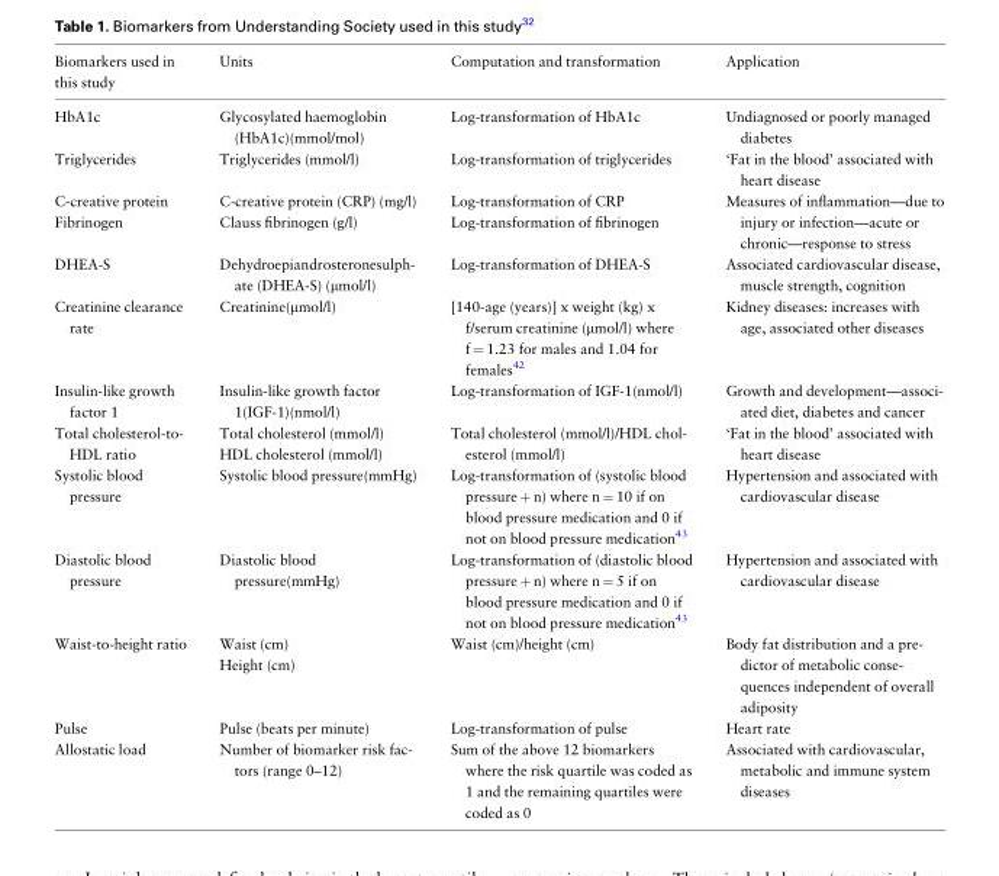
<table><thead><tr><td>Biomarkers used in this study</td><td>Units</td><td>Computation and transformation</td><td>Application</td></tr></thead><tbody><tr><td>HbA1c</td><td>Glycosylated haemoglobin (HbA1c)(mmol/mol)</td><td>Log-transformation of HbA1c</td><td>Undiagnosed or poorly managed diabetes</td></tr><tr><td>Triglycerides</td><td>Triglycerides (mmol/l)</td><td>Log-transformation of triglycerides</td><td>‘Fat in the blood’ associated with heart disease</td></tr><tr><td>C-creative protein</td><td>C-creative protein (CRP) (mg/l)</td><td>Log-transformation of CRP</td><td rowspan="2">Measures of inflammation—due to injury or infection—acute or chronic—response to stress</td></tr><tr><td>Fibrinogen</td><td>Clauss fibrinogen (g/l)</td><td>Log-transformation of fibrinogen</td></tr><tr><td>DHEA-S</td><td>Dehydroepiandrosteronesulph- ate (DHEA-S) (mmol/l)</td><td>Log-transformation of DHEA-S</td><td>Associated cardiovascular disease, muscle strength, cognition</td></tr><tr><td>Creatinine clearance rate</td><td>Creatinine(µmol/l)</td><td>[140-age (years)] x weight (kg) x f/serum creatinine (µmol/l) where f = 1.23 for males and 1.04 for females<sup>42</sup></td><td>Kidney diseases: increases with age, associated other diseases</td></tr><tr><td>Insulin-like growth factor 1</td><td>Insulin-like growth factor 1(IGF-1)(nmol/l)</td><td>Log-transformation of IGF-1(nmol/l)</td><td>Growth and development—associ- ated diet, diabetes and cancer</td></tr><tr><td>Total cholesterol-to- HDL ratio</td><td>Total cholesterol (mmol/l) HDL cholesterol (mmol/l)</td><td>Total cholesterol (mmol/l)/HDL chol- esterol (mmol/l)</td><td>‘Fat in the blood’ associated with heart disease</td></tr><tr><td>Systolic blood pressure</td><td>Systolic blood pressure(mmHg)</td><td>Log-transformation of (systolic blood pressure + n) where n = 10 if on blood pressure medication and 0 if not on blood pressure medication<sup>43</sup></td><td>Hypertension and associated with cardiovascular disease</td></tr><tr><td>Diastolic blood pressure</td><td>Diastolic blood pressure(mmHg)</td><td>Log-transformation of (diastolic blood pressure + n) where n = 5 if on blood pressure medication and 0 if not on blood pressure medication<sup>43</sup></td><td>Hypertension and associated with cardiovascular disease</td></tr><tr><td>Waist-to-height ratio</td><td>Waist (cm) Height (cm)</td><td>Waist (cm)/height (cm)</td><td>Body fat distribution and a pre- dictor of metabolic conse- quences independent of overall adiposity</td></tr><tr><td>Pulse</td><td>Pulse (beats per minute)</td><td>Log-transformation of pulse</td><td>Heart rate</td></tr><tr><td>Allostatic load</td><td>Number of biomarker risk fac- tors (range 0–12)</td><td>Sum of the above 12 biomarkers where the risk quartile was coded as 1 and the remaining quartiles were coded as 0</td><td>Associated with cardiovascular, metabolic and immune system diseases</td></tr></tbody></table>